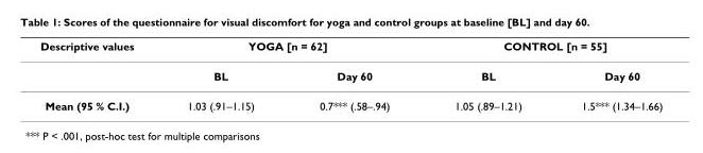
<table><thead><tr><td rowspan="2">Descriptive values</td><td colspan="2">YOGA [n = 62]</td><td colspan="2">CONTROL [n = 55]</td></tr><tr><td>BL</td><td>Day 60</td><td>BL</td><td>Day 60</td></tr></thead><tbody><tr><td>Mean (95 % C.I.)</td><td>1.03 (.91–1.15)</td><td>0.7*** (.58–.94)</td><td>1.05 (.89–1.21)</td><td>1.5*** (1.34–1.66)</td></tr></tbody></table>